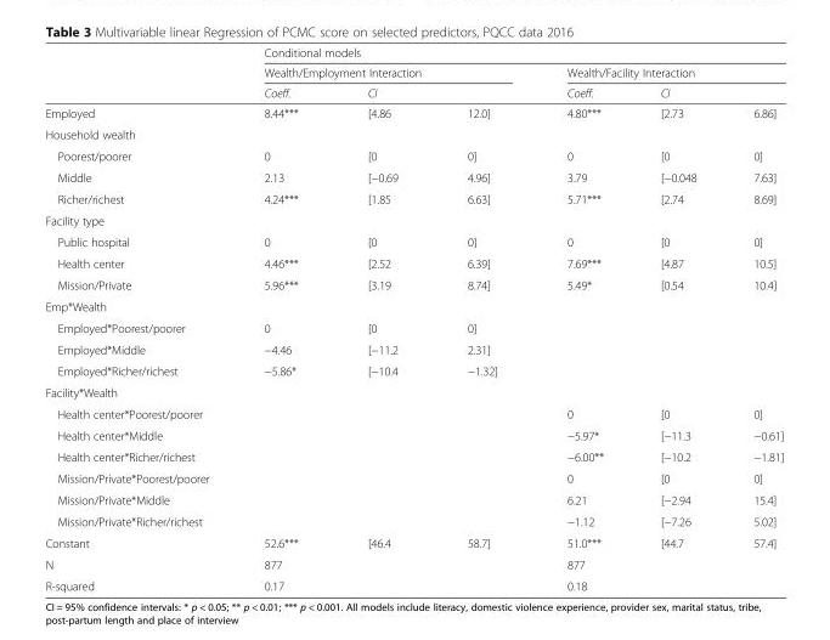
<table><thead><tr><td rowspan="4">Employed</td><td colspan="6">Conditional models</td></tr><tr><td colspan="3">Wealth/Employment Interaction</td><td colspan="3">Wealth/Facility Interaction</td></tr><tr><td rowspan="2">Coeff. 8.44***</td><td colspan="2">CI</td><td rowspan="2">Coeff. 4.80***</td><td colspan="2">CI</td></tr><tr><td>[4.86</td><td>12.0]</td><td>[2.73</td><td>6.86]</td></tr></thead><tbody><tr><td colspan="7">Household wealth</td></tr><tr><td>Poorest/poorer</td><td>0</td><td>[0</td><td>0]</td><td>0</td><td>[0</td><td>0]</td></tr><tr><td>Middle</td><td>2.13</td><td>[−0.69</td><td>4.96]</td><td>3.79</td><td>[−0.048</td><td>7.63]</td></tr><tr><td>Richer/richest</td><td>4.24***</td><td>[1.85</td><td>6.63]</td><td>5.71***</td><td>[2.74</td><td>8.69]</td></tr><tr><td colspan="7">Facility type</td></tr><tr><td>Public hospital</td><td>0</td><td>[0</td><td>0]</td><td>0</td><td>[0</td><td>0]</td></tr><tr><td>Health center</td><td>4.46***</td><td>[2.52</td><td>6.39]</td><td>7.69***</td><td>[4.87</td><td>10.5]</td></tr><tr><td>Mission/Private</td><td>5.96***</td><td>[3.19</td><td>8.74]</td><td>5.49*</td><td>[0.54</td><td>10.4]</td></tr><tr><td colspan="7">Emp*Wealth</td></tr><tr><td>Employed*Poorest/poorer</td><td>0</td><td>[0</td><td>0]</td><td></td><td></td><td></td></tr><tr><td>Employed*Middle</td><td>−4.46</td><td>[−11.2</td><td>2.31]</td><td></td><td></td><td></td></tr><tr><td>Employed*Richer/richest</td><td>−5.86*</td><td>[−10.4</td><td>−1.32]</td><td></td><td></td><td></td></tr><tr><td colspan="7">Facility*Wealth</td></tr><tr><td>Health center*Poorest/poorer</td><td></td><td></td><td></td><td>0</td><td>[0</td><td>0]</td></tr><tr><td>Health center*Middle</td><td></td><td></td><td></td><td>−5.97*</td><td>[−11.3</td><td>−0.61]</td></tr><tr><td>Health center*Richer/richest</td><td></td><td></td><td></td><td>−6.00**</td><td>[−10.2</td><td>−1.81]</td></tr><tr><td>Mission/Private*Poorest/poorer</td><td></td><td></td><td></td><td>0</td><td>[0</td><td>0]</td></tr><tr><td>Mission/Private*Middle</td><td></td><td></td><td></td><td>6.21</td><td>[−2.94</td><td>15.4]</td></tr><tr><td>Mission/Private*Richer/richest</td><td></td><td></td><td></td><td>−1.12</td><td>[−7.26</td><td>5.02]</td></tr><tr><td>Constant</td><td>52.6***</td><td>[46.4</td><td>58.7]</td><td>51.0***</td><td>[44.7</td><td>57.4]</td></tr><tr><td>N</td><td>877</td><td></td><td></td><td>877</td><td></td><td></td></tr><tr><td>R-squared</td><td>0.17</td><td></td><td></td><td>0.18</td><td></td><td></td></tr></tbody></table>